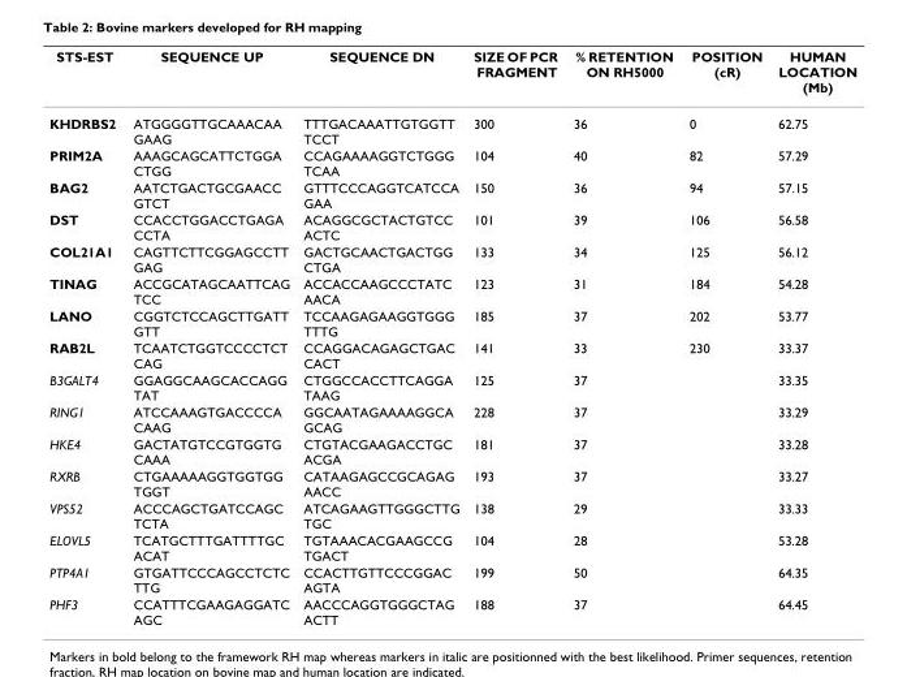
<table><thead><tr><td>STS-EST</td><td>SEQUENCE UP</td><td>SEQUENCE DN</td><td>SIZE OF PCR FRAGMENT</td><td>% RETENTION ON RH5000</td><td>POSITION (cR)</td><td>HUMAN LOCATION (Mb)</td></tr></thead><tbody><tr><td>KHDRBS2</td><td>ATGGGGTTGCAAACAA GAAG</td><td>TTTGACAAATTGTGGTT TCCT</td><td>300</td><td>36</td><td>0</td><td>62.75</td></tr><tr><td>PRIM2A</td><td>AAAGCAGCATTCTGGA CTGG</td><td>CCAGAAAAGGTCTGGG TCAA</td><td>104</td><td>40</td><td>82</td><td>57.29</td></tr><tr><td>BAG2</td><td>AATCTGACTGCGAACC GTCT</td><td>GTTTCCCAGGTCATCCA GAA</td><td>150</td><td>36</td><td>94</td><td>57.15</td></tr><tr><td>DST</td><td>CCACCTGGACCTGAGA CCTA</td><td>ACAGGCGCTACTGTCC ACTC</td><td>101</td><td>39</td><td>106</td><td>56.58</td></tr><tr><td>COL21A1</td><td>CAGTTCTTCGGAGCCTT GAG</td><td>GACTGCAACTGACTGG CTGA</td><td>133</td><td>34</td><td>125</td><td>56.12</td></tr><tr><td>TINAG</td><td>ACCGCATAGCAATTCAG TCC</td><td>ACCACCAAGCCCTATC AACA</td><td>123</td><td>31</td><td>184</td><td>54.28</td></tr><tr><td>LANO</td><td>CGGTCTCCAGCTTGATT GTT</td><td>TCCAAGAGAAGGTGGG TTTG</td><td>185</td><td>37</td><td>202</td><td>53.77</td></tr><tr><td>RAB2L</td><td>TCAATCTGGTCCCCTCT CAG</td><td>CCAGGACAGAGCTGAC CACT</td><td>141</td><td>33</td><td>230</td><td>33.37</td></tr><tr><td>B3GALT4</td><td>GGAGGCAAGCACCAGG TAT</td><td>CTGGCCACCTTCAGGA TAAG</td><td>125</td><td>37</td><td></td><td>33.35</td></tr><tr><td>RING1</td><td>ATCCAAAGTGACCCCA CAAG</td><td>GGCAATAGAAAAGGCA GCAG</td><td>228</td><td>37</td><td></td><td>33.29</td></tr><tr><td>HKE4</td><td>GACTATGTCCGTGGTG CAAA</td><td>CTGTACGAAGACCTGC ACGA</td><td>181</td><td>37</td><td></td><td>33.28</td></tr><tr><td>RXRB</td><td>CTGAAAAAGGTGGTGG TGGT</td><td>CATAAGAGCCGCAGAG AACC</td><td>193</td><td>37</td><td></td><td>33.27</td></tr><tr><td>VPS52</td><td>ACCCAGCTGATCCAGC TCTA</td><td>ATCAGAAGTTGGGCTTG TGC</td><td>138</td><td>29</td><td></td><td>33.33</td></tr><tr><td>ELOVL5</td><td>TCATGCTTTGATTTTGC ACAT</td><td>TGTAAACACGAAGCCG TGACT</td><td>104</td><td>28</td><td></td><td>53.28</td></tr><tr><td>PTP4A1</td><td>GTGATTCCCAGCCTCTC TTG</td><td>CCACTTGTTCCCGGAC AGTA</td><td>199</td><td>50</td><td></td><td>64.35</td></tr><tr><td>PHF3</td><td>CCATTTCGAAGAGGATC AGC</td><td>AACCCAGGTGGGCTAG ACTT</td><td>188</td><td>37</td><td></td><td>64.45</td></tr></tbody></table>